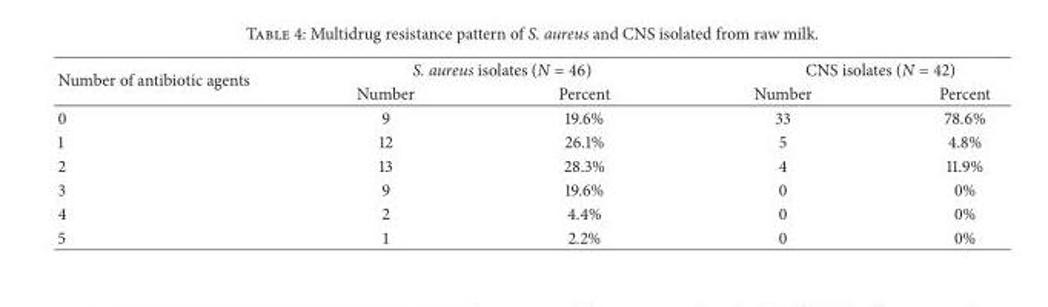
<table><thead><tr><td rowspan="2">Number of antibiotic agents</td><td colspan="2">S. aureus isolates (N = 46)</td><td colspan="2">CNS isolates (N = 42)</td></tr><tr><td>Number</td><td>Percent</td><td>Number</td><td>Percent</td></tr></thead><tbody><tr><td>0</td><td>9</td><td>19.6%</td><td>33</td><td>78.6%</td></tr><tr><td>1</td><td>12</td><td>26.1%</td><td>5</td><td>4.8%</td></tr><tr><td>2</td><td>13</td><td>28.3%</td><td>4</td><td>11.9%</td></tr><tr><td>3</td><td>9</td><td>19.6%</td><td>0</td><td>0%</td></tr><tr><td>4</td><td>2</td><td>4.4%</td><td>0</td><td>0%</td></tr><tr><td>5</td><td>1</td><td>2.2%</td><td>0</td><td>0%</td></tr></tbody></table>